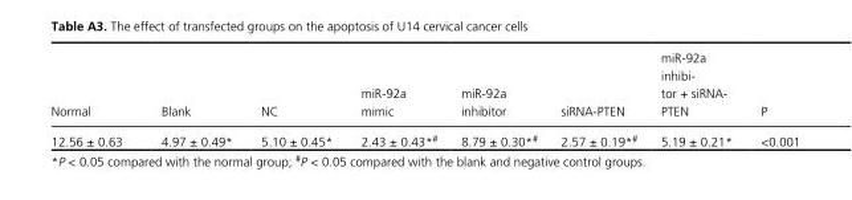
<table><thead><tr><td>Normal</td><td>Blank</td><td>NC</td><td>miR- 92a mimic</td><td>miR- 92a inhibitor</td><td>siRNA- PTEN</td><td>miR- 92a inhibi- tor + siRNA- PTEN</td><td>P</td></tr></thead><tbody><tr><td>12.56 ± 0.63</td><td>4.97 ± 0.49*</td><td>5.10 ± 0.45*</td><td>2.43 ± 0.43*#</td><td>8.79 ± 0.30*#</td><td>2.57 ± 0.19*#</td><td>5.19 ± 0.21*</td><td>&lt;0.001</td></tr></tbody></table>